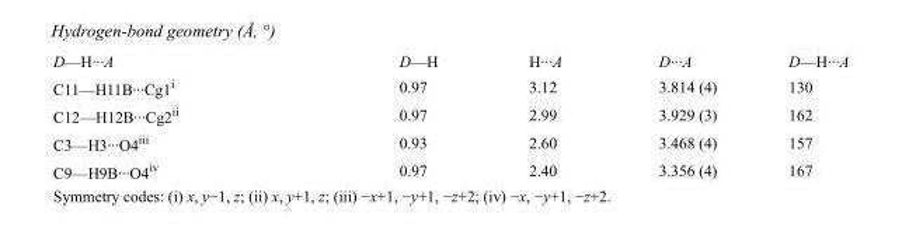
<table><tbody><tr><td>D—H···A</td><td>D—H</td><td>H···A</td><td>D···A</td><td>D—H···A</td></tr><tr><td>C11—H11B···Cg1<sup>i</sup></td><td>0.97</td><td>3.12</td><td>3.814 (4)</td><td>130</td></tr><tr><td>C12—H12B···Cg2<sup>ii</sup></td><td>0.97</td><td>2.99</td><td>3.929 (3)</td><td>162</td></tr><tr><td>C3—H3···O4<sup>iii</sup></td><td>0.93</td><td>2.60</td><td>3.468 (4)</td><td>157</td></tr><tr><td>C9—H9B···O4<sup>iv</sup></td><td>0.97</td><td>2.40</td><td>3.356 (4)</td><td>167</td></tr></tbody></table>